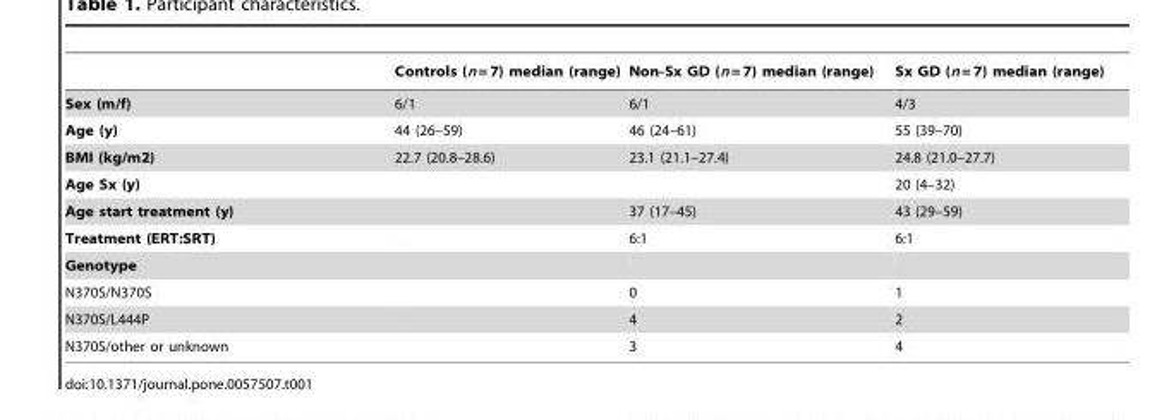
<table><thead><tr><td></td><td>Controls (n = 7) median (range)</td><td>Non-Sx GD (n = 7) median (range)</td><td>Sx GD (n = 7) median (range)</td></tr></thead><tbody><tr><td>Sex (m/f)</td><td>6/1</td><td>6/1</td><td>4/3</td></tr><tr><td>Age (y)</td><td>44 (26–59)</td><td>46 (24–61)</td><td>55 (39–70)</td></tr><tr><td>BMI (kg/m2)</td><td>22.7 (20.8–28.6)</td><td>23.1 (21.1–27.4)</td><td>24.8 (21.0–27.7)</td></tr><tr><td>Age Sx (y)</td><td></td><td></td><td>20 (4–32)</td></tr><tr><td>Age start treatment (y)</td><td></td><td>37 (17–45)</td><td>43 (29–59)</td></tr><tr><td>Treatment (ERT:SRT)</td><td></td><td>6:1</td><td>6:1</td></tr><tr><td colspan="4">Genotype</td></tr><tr><td>N370S/N370S</td><td></td><td>0</td><td>1</td></tr><tr><td>N370S/L444P</td><td></td><td>4</td><td>2</td></tr><tr><td>N370S/other or unknown</td><td></td><td>3</td><td>4</td></tr></tbody></table>